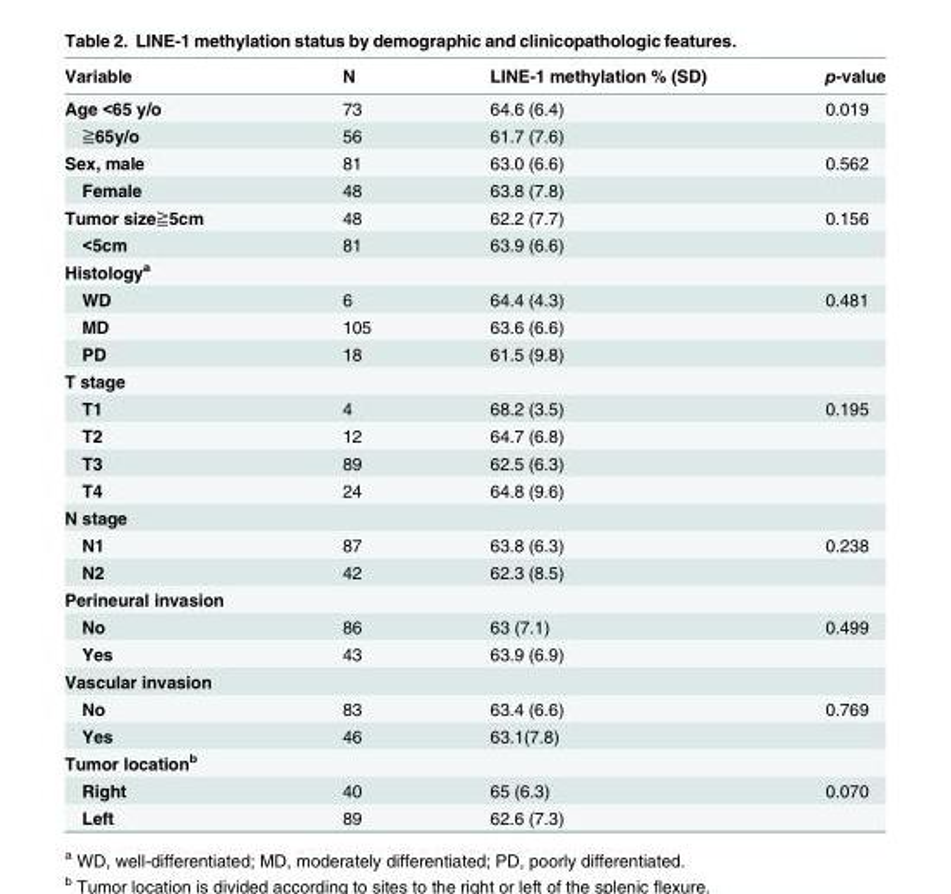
<table><thead><tr><td>Variable</td><td>N</td><td>LINE-1 methylation % (SD)</td><td>p-value</td></tr></thead><tbody><tr><td>Age &lt;65 y/o</td><td>73</td><td>64.6 (6.4)</td><td>0.019</td></tr><tr><td>≧65y/o</td><td>56</td><td>61.7 (7.6)</td><td></td></tr><tr><td>Sex, male</td><td>81</td><td>63.0 (6.6)</td><td>0.562</td></tr><tr><td>Female</td><td>48</td><td>63.8 (7.8)</td><td></td></tr><tr><td>Tumor size≧5cm</td><td>48</td><td>62.2 (7.7)</td><td>0.156</td></tr><tr><td>&lt;5cm</td><td>81</td><td>63.9 (6.6)</td><td></td></tr><tr><td colspan="4">Histology<sup>a</sup></td></tr><tr><td>WD</td><td>6</td><td>64.4 (4.3)</td><td>0.481</td></tr><tr><td>MD</td><td>105</td><td>63.6 (6.6)</td><td></td></tr><tr><td>PD</td><td>18</td><td>61.5 (9.8)</td><td></td></tr><tr><td colspan="4">T stage</td></tr><tr><td>T1</td><td>4</td><td>68.2 (3.5)</td><td>0.195</td></tr><tr><td>T2</td><td>12</td><td>64.7 (6.8)</td><td></td></tr><tr><td>T3</td><td>89</td><td>62.5 (6.3)</td><td></td></tr><tr><td>T4</td><td>24</td><td>64.8 (9.6)</td><td></td></tr><tr><td colspan="4">N stage</td></tr><tr><td>N1</td><td>87</td><td>63.8 (6.3)</td><td>0.238</td></tr><tr><td>N2</td><td>42</td><td>62.3 (8.5)</td><td></td></tr><tr><td colspan="4">Perineural invasion</td></tr><tr><td>No</td><td>86</td><td>63 (7.1)</td><td>0.499</td></tr><tr><td>Yes</td><td>43</td><td>63.9 (6.9)</td><td></td></tr><tr><td colspan="4">Vascular invasion</td></tr><tr><td>No</td><td>83</td><td>63.4 (6.6)</td><td>0.769</td></tr><tr><td>Yes</td><td>46</td><td>63.1(7.8)</td><td></td></tr><tr><td colspan="4">Tumor location<sup>b</sup></td></tr><tr><td>Right</td><td>40</td><td>65 (6.3)</td><td>0.070</td></tr><tr><td>Left</td><td>89</td><td>62.6 (7.3)</td><td></td></tr></tbody></table>